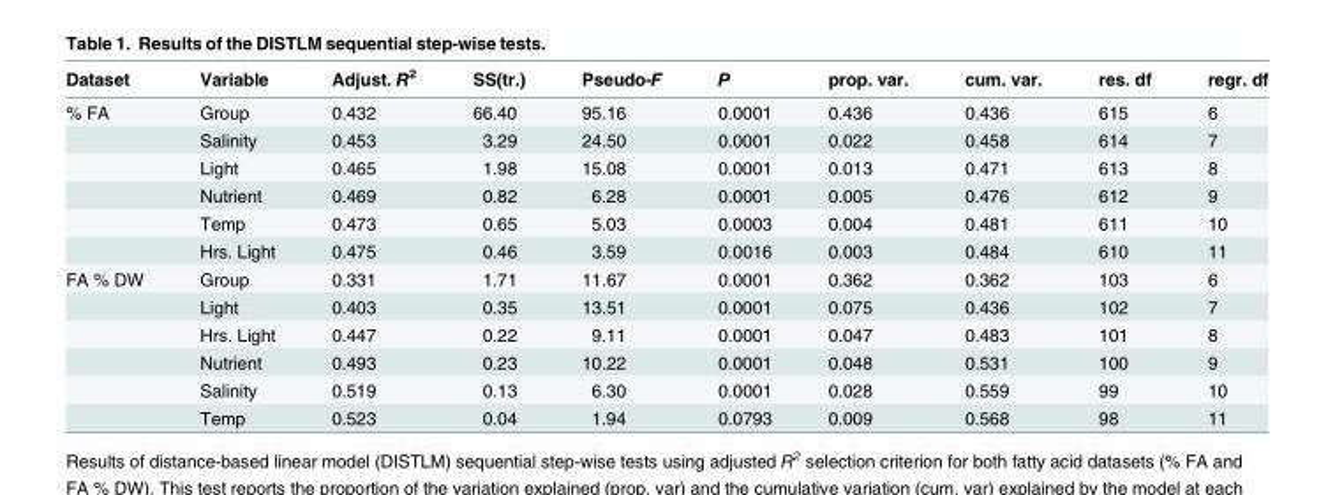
<table><thead><tr><td>Dataset</td><td>Variable</td><td>Adjust. R<sup>2</sup></td><td>SS(tr.)</td><td>Pseudo-F</td><td>P</td><td>prop. var.</td><td>cum. var.</td><td>res. df</td><td>regr. df</td></tr></thead><tbody><tr><td rowspan="6">% FA</td><td>Group</td><td>0.432</td><td>66.40</td><td>95.16</td><td>0.0001</td><td>0.436</td><td>0.436</td><td>615</td><td>6</td></tr><tr><td>Salinity</td><td>0.453</td><td>3.29</td><td>24.50</td><td>0.0001</td><td>0.022</td><td>0.458</td><td>614</td><td>7</td></tr><tr><td>Light</td><td>0.465</td><td>1.98</td><td>15.08</td><td>0.0001</td><td>0.013</td><td>0.471</td><td>613</td><td>8</td></tr><tr><td>Nutrient</td><td>0.469</td><td>0.82</td><td>6.28</td><td>0.0001</td><td>0.005</td><td>0.476</td><td>612</td><td>9</td></tr><tr><td>Temp</td><td>0.473</td><td>0.65</td><td>5.03</td><td>0.0003</td><td>0.004</td><td>0.481</td><td>611</td><td>10</td></tr><tr><td>Hrs. Light</td><td>0.475</td><td>0.46</td><td>3.59</td><td>0.0016</td><td>0.003</td><td>0.484</td><td>610</td><td>11</td></tr><tr><td rowspan="6">FA % DW</td><td>Group</td><td>0.331</td><td>1.71</td><td>11.67</td><td>0.0001</td><td>0.362</td><td>0.362</td><td>103</td><td>6</td></tr><tr><td>Light</td><td>0.403</td><td>0.35</td><td>13.51</td><td>0.0001</td><td>0.075</td><td>0.436</td><td>102</td><td>7</td></tr><tr><td>Hrs. Light</td><td>0.447</td><td>0.22</td><td>9.11</td><td>0.0001</td><td>0.047</td><td>0.483</td><td>101</td><td>8</td></tr><tr><td>Nutrient</td><td>0.493</td><td>0.23</td><td>10.22</td><td>0.0001</td><td>0.048</td><td>0.531</td><td>100</td><td>9</td></tr><tr><td>Salinity</td><td>0.519</td><td>0.13</td><td>6.30</td><td>0.0001</td><td>0.028</td><td>0.559</td><td>99</td><td>10</td></tr><tr><td>Temp</td><td>0.523</td><td>0.04</td><td>1.94</td><td>0.0793</td><td>0.009</td><td>0.568</td><td>98</td><td>11</td></tr></tbody></table>